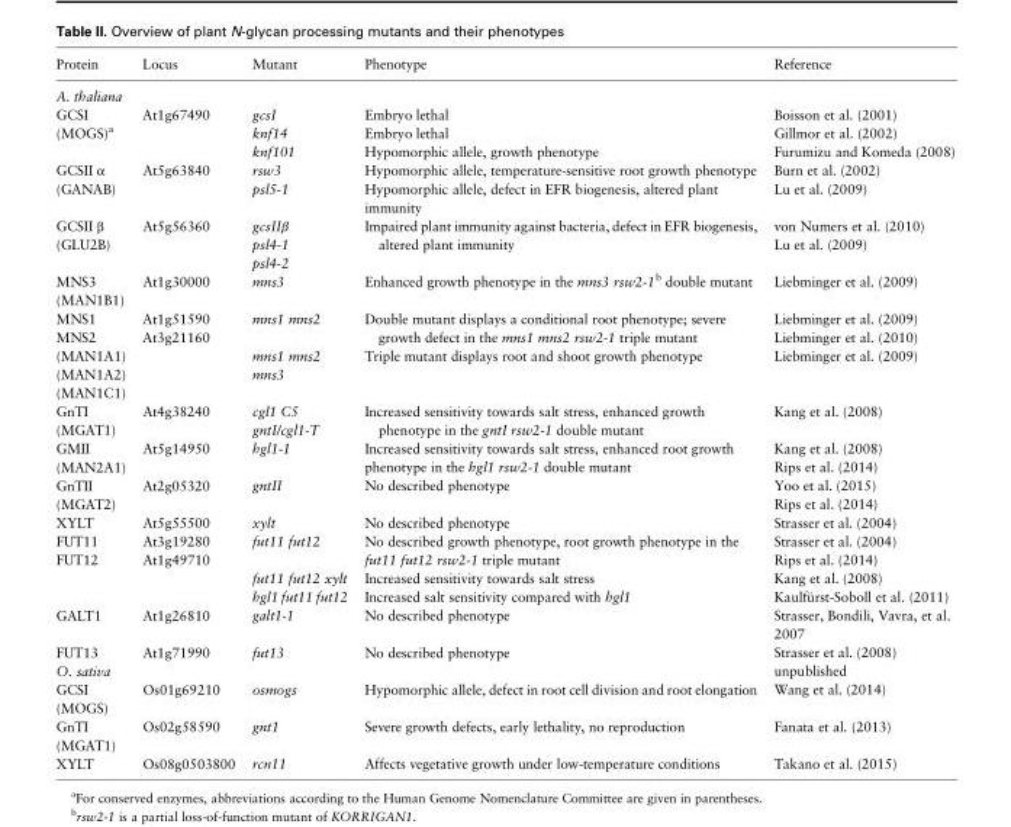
<table><thead><tr><td>Protein</td><td>Locus</td><td>Mutant</td><td>Phenotype</td><td>Reference</td></tr></thead><tbody><tr><td>A. thaliana GCSI (MOGS)<sup>a</sup></td><td>At1g67490</td><td>gcsI knf14 knf101</td><td>Embryo lethal Embryo lethal Hypomorphic allele, growth phenotype</td><td>Boisson et al. (2001) Gillmor et al. (2002) Furumizu and Komeda (2008)</td></tr><tr><td>GCSII α (GANAB)</td><td>At5g63840</td><td>rsw3 psl5-1</td><td>Hypomorphic allele, temperature-sensitive root growth phenotype Hypomorphic allele, defect in EFR biogenesis, altered plant immunity</td><td>Burn et al. (2002) Lu et al. (2009)</td></tr><tr><td>GCSII β (GLU2B)</td><td>At5g56360</td><td>gcsIIβ psl4-1 psl4-2</td><td>Impaired plant immunity against bacteria, defect in EFR biogenesis, altered plant immunity</td><td>von Numers et al. (2010) Lu et al. (2009)</td></tr><tr><td>MNS3 (MAN1B1)</td><td>At1g30000</td><td>mns3</td><td>Enhanced growth phenotype in the mns3 rsw2-1<sup>b</sup> double mutant</td><td>Liebminger et al. (2009)</td></tr><tr><td>MNS1 MNS2 (MAN1A1) (MAN1A2) (MAN1C1)</td><td>At1g51590 At3g21160</td><td>mns1 mns2 mns1 mns2 mns3</td><td>Double mutant displays a conditional root phenotype; severe growth defect in the mns1 mns2 rsw2-1 triple mutant Triple mutant displays root and shoot growth phenotype</td><td>Liebminger et al. (2009) Liebminger et al. (2010) Liebminger et al. (2009)</td></tr><tr><td>GnTI (MGAT1) GMII (MAN2A1) GnTII (MGAT2) XYLT FUT11 FUT12 GALT1 FUT13 O. sativa GCSI (MOGS) GnTI (MGAT1) XYLT</td><td>At4g38240 At5g14950 At2g05320 At5g55500 At3g19280 At1g49710 At1g26810 At1g71990 Os01g69210 Os02g58590 Os08g0503800</td><td>cgl1 C5 gntI/cgl1-T hgl1-1 gntII xylt fut11 fut12 fut11 fut12 xylt hgl1 fut11 fut12 galt1-1 fut13 osmogs gnt1 rcn11</td><td>Increased sensitivity towards salt stress, enhanced growth phenotype in the gntI rsw2-1 double mutant Increased sensitivity towards salt stress, enhanced root growth phenotype in the hgl1 rsw2-1 double mutant No described phenotype No described phenotype No described growth phenotype, root growth phenotype in the fut11 fut12 rsw2-1 triple mutant Increased sensitivity towards salt stress Increased salt sensitivity compared with hgl1 No described phenotype No described phenotype Hypomorphic allele, defect in root cell division and root elongation Severe growth defects, early lethality, no reproduction Affects vegetative growth under low-temperature conditions</td><td>Kang et al. (2008) Kang et al. (2008) Rips et al. (2014) Yoo et al. (2015) Rips et al. (2014) Strasser et al. (2004) Strasser et al. (2004) Rips et al. (2014) Kang et al. (2008) Kaulfürst-Soboll et al. (2011) Strasser, Bondili, Vavra, et al. 2007 Strasser et al. (2008) unpublished Wang et al. (2014) Fanata et al. (2013) Takano et al. (2015)</td></tr></tbody></table>